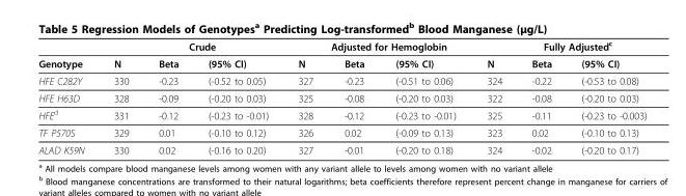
<table><thead><tr><td rowspan="2">Genotype</td><td colspan="3">Crude</td><td colspan="3">Adjusted for Hemoglobin</td><td colspan="3">Fully Adjusted<sup>c</sup></td></tr><tr><td>N</td><td>Beta</td><td>(95% CI)</td><td>N</td><td>Beta</td><td>(95% CI)</td><td>N</td><td>Beta</td><td>(95% CI)</td></tr></thead><tbody><tr><td>HFE C282Y</td><td>330</td><td>-0.23</td><td>(-0.52 to 0.05)</td><td>327</td><td>-0.23</td><td>(-0.51 to 0.06)</td><td>324</td><td>-0.22</td><td>(-0.53 to 0.08)</td></tr><tr><td>HFE H63D</td><td>328</td><td>-0.09</td><td>(-0.20 to 0.03)</td><td>325</td><td>-0.08</td><td>(-0.20 to 0.03)</td><td>322</td><td>-0.08</td><td>(-0.20 to 0.03)</td></tr><tr><td>HFE<sup>d</sup></td><td>331</td><td>-0.12</td><td>(-0.23 to -0.01)</td><td>328</td><td>-0.12</td><td>(-0.23 to -0.01)</td><td>325</td><td>-0.11</td><td>(-0.23 to -0.003)</td></tr><tr><td>TF P570S</td><td>329</td><td>0.01</td><td>(-0.10 to 0.12)</td><td>326</td><td>0.02</td><td>(-0.09 to 0.13)</td><td>323</td><td>0.02</td><td>(-0.10 to 0.13)</td></tr><tr><td>ALAD K59N</td><td>330</td><td>0.02</td><td>(-0.16 to 0.20)</td><td>327</td><td>-0.01</td><td>(-0.20 to 0.18)</td><td>324</td><td>-0.02</td><td>(-0.20 to 0.17)</td></tr></tbody></table>